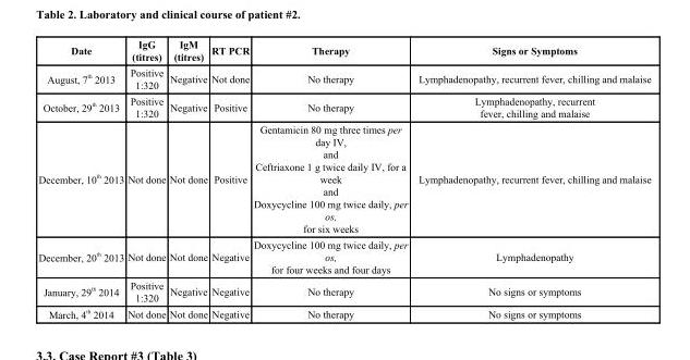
<table><thead><tr><td>Date</td><td>IgG (titres)</td><td>IgM (titres)</td><td>RT PCR</td><td>Therapy</td><td>Signs or Symptoms</td></tr></thead><tbody><tr><td>August, 7 <sup>th</sup> 2013</td><td>Positive 1:320</td><td>Negative</td><td>Not done</td><td>No therapy</td><td>Lymphadenopathy, recurrent fever, chilling and malaise</td></tr><tr><td>October, 29 <sup>th</sup> 2013</td><td>Positive 1:320</td><td>Negative</td><td>Positive</td><td>No therapy</td><td>Lymphadenopathy, recurrent fever, chilling and malaise</td></tr><tr><td>December, 10 <sup>th</sup> 2013</td><td>Not done</td><td>Not done</td><td>Positive</td><td>Gentamicin 80 mg three times per day IV, and Ceftriaxone 1 g twice daily IV, for a week and Doxycycline 100 mg twice daily, per os, for six weeks</td><td>Lymphadenopathy, recurrent fever, chilling and malaise</td></tr><tr><td>December, 20 <sup>th</sup> 2013</td><td>Not done</td><td>Not done</td><td>Negative</td><td>Doxycycline 100 mg twice daily, per os, for four weeks and four days</td><td>Lymphadenopathy</td></tr><tr><td>January, 29 <sup>th</sup> 2014</td><td>Positive 1:320</td><td>Negative</td><td>Negative</td><td>No therapy</td><td>No signs or symptoms</td></tr><tr><td>March, 4 <sup>th</sup> 2014</td><td>Not done</td><td>Not done</td><td>Negative</td><td>No therapy</td><td>No signs or symptoms</td></tr></tbody></table>